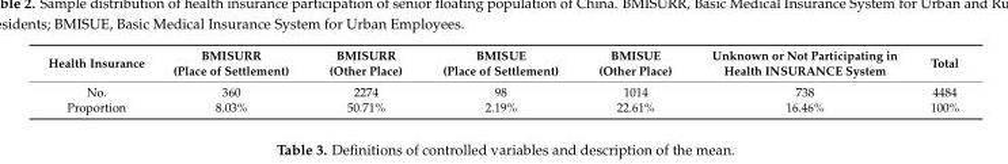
<table><thead><tr><td>Health Insurance</td><td>BMISURR (Place of Settlement)</td><td>BMISURR (Other Place)</td><td>BMISUE (Place of Settlement)</td><td>BMISUE (Other Place)</td><td>Unknown or Not Participating in Health INSURANCE System</td><td>Total</td></tr></thead><tbody><tr><td>No.</td><td>360</td><td>2274</td><td>98</td><td>1014</td><td>738</td><td>4484</td></tr><tr><td>Proportion</td><td>8.03%</td><td>50.71%</td><td>2.19%</td><td>22.61%</td><td>16.46%</td><td>100%</td></tr></tbody></table>